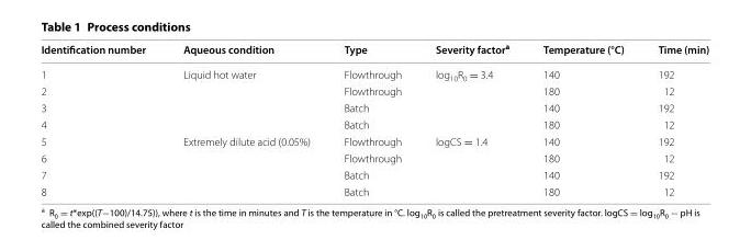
<table><thead><tr><td>Identification number</td><td>Aqueous condition</td><td>Type</td><td>Severity factor<sup>a</sup></td><td>Temperature (°C)</td><td>Time (min)</td></tr></thead><tbody><tr><td>1</td><td rowspan="4">Liquid hot water</td><td>Flowthrough</td><td rowspan="4">log<sub>10</sub>R<sub>0</sub> = 3.4</td><td>140</td><td>192</td></tr><tr><td>2</td><td>Flowthrough</td><td>180</td><td>12</td></tr><tr><td>3</td><td>Batch</td><td>140</td><td>192</td></tr><tr><td>4</td><td>Batch</td><td>180</td><td>12</td></tr><tr><td>5</td><td rowspan="4">Extremely dilute acid (0.05%)</td><td>Flowthrough</td><td rowspan="4">logCS = 1.4</td><td>140</td><td>192</td></tr><tr><td>6</td><td>Flowthrough</td><td>180</td><td>12</td></tr><tr><td>7</td><td>Batch</td><td>140</td><td>192</td></tr><tr><td>8</td><td>Batch</td><td>180</td><td>12</td></tr></tbody></table>